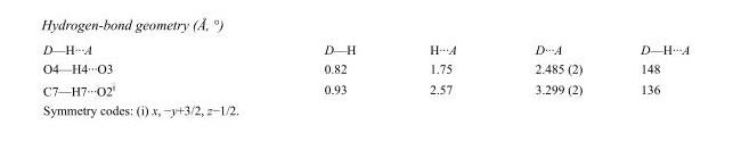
<table><tbody><tr><td>D—H···A</td><td>D—H</td><td>H···A</td><td>D···A</td><td>D—H···A</td></tr><tr><td>O4—H4···O3</td><td>0.82</td><td>1.75</td><td>2.485 (2)</td><td>148</td></tr><tr><td>C7—H7···O2<sup>i</sup></td><td>0.93</td><td>2.57</td><td>3.299 (2)</td><td>136</td></tr></tbody></table>